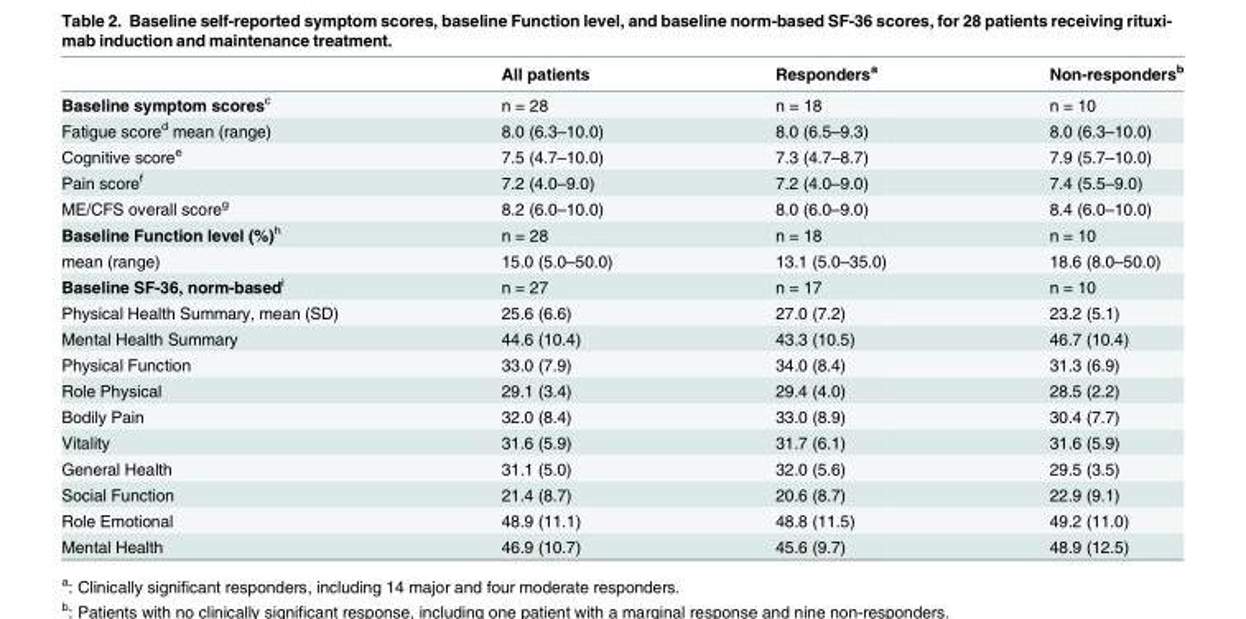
<table><thead><tr><td></td><td>All patients</td><td>Responders<sup>a</sup></td><td>Non-responders<sup>b</sup></td></tr></thead><tbody><tr><td>Baseline symptom scores<sup>c</sup></td><td>n = 28</td><td>n = 18</td><td>n = 10</td></tr><tr><td>Fatigue score<sup>d</sup> mean (range)</td><td>8.0 (6.3–10.0)</td><td>8.0 (6.5–9.3)</td><td>8.0 (6.3–10.0)</td></tr><tr><td>Cognitive score<sup>e</sup></td><td>7.5 (4.7–10.0)</td><td>7.3 (4.7–8.7)</td><td>7.9 (5.7–10.0)</td></tr><tr><td>Pain score<sup>f</sup></td><td>7.2 (4.0–9.0)</td><td>7.2 (4.0–9.0)</td><td>7.4 (5.5–9.0)</td></tr><tr><td>ME/CFS overall score<sup>g</sup></td><td>8.2 (6.0–10.0)</td><td>8.0 (6.0–9.0)</td><td>8.4 (6.0–10.0)</td></tr><tr><td>Baseline Function level (%)<sup>h</sup></td><td>n = 28</td><td>n = 18</td><td>n = 10</td></tr><tr><td>mean (range)</td><td>15.0 (5.0–50.0)</td><td>13.1 (5.0–35.0)</td><td>18.6 (8.0–50.0)</td></tr><tr><td>Baseline SF-36, norm-based<sup>i</sup></td><td>n = 27</td><td>n = 17</td><td>n = 10</td></tr><tr><td>Physical Health Summary, mean (SD)</td><td>25.6 (6.6)</td><td>27.0 (7.2)</td><td>23.2 (5.1)</td></tr><tr><td>Mental Health Summary</td><td>44.6 (10.4)</td><td>43.3 (10.5)</td><td>46.7 (10.4)</td></tr><tr><td>Physical Function</td><td>33.0 (7.9)</td><td>34.0 (8.4)</td><td>31.3 (6.9)</td></tr><tr><td>Role Physical</td><td>29.1 (3.4)</td><td>29.4 (4.0)</td><td>28.5 (2.2)</td></tr><tr><td>Bodily Pain</td><td>32.0 (8.4)</td><td>33.0 (8.9)</td><td>30.4 (7.7)</td></tr><tr><td>Vitality</td><td>31.6 (5.9)</td><td>31.7 (6.1)</td><td>31.6 (5.9)</td></tr><tr><td>General Health</td><td>31.1 (5.0)</td><td>32.0 (5.6)</td><td>29.5 (3.5)</td></tr><tr><td>Social Function</td><td>21.4 (8.7)</td><td>20.6 (8.7)</td><td>22.9 (9.1)</td></tr><tr><td>Role Emotional</td><td>48.9 (11.1)</td><td>48.8 (11.5)</td><td>49.2 (11.0)</td></tr><tr><td>Mental Health</td><td>46.9 (10.7)</td><td>45.6 (9.7)</td><td>48.9 (12.5)</td></tr></tbody></table>